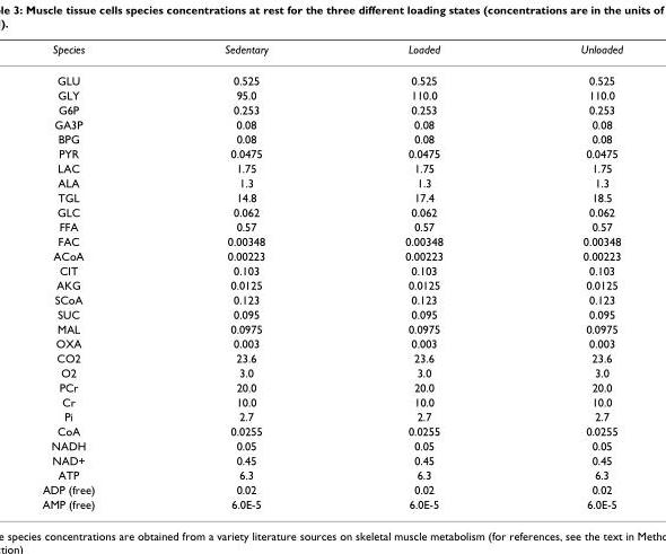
<table><thead><tr><td>Species</td><td>Sedentary</td><td>Loaded</td><td>Unloaded</td></tr></thead><tbody><tr><td>GLU</td><td>0.525</td><td>0.525</td><td>0.525</td></tr><tr><td>GLY</td><td>95.0</td><td>110.0</td><td>110.0</td></tr><tr><td>G6P</td><td>0.253</td><td>0.253</td><td>0.253</td></tr><tr><td>GA3P</td><td>0.08</td><td>0.08</td><td>0.08</td></tr><tr><td>BPG</td><td>0.08</td><td>0.08</td><td>0.08</td></tr><tr><td>PYR</td><td>0.0475</td><td>0.0475</td><td>0.0475</td></tr><tr><td>LAC</td><td>1.75</td><td>1.75</td><td>1.75</td></tr><tr><td>ALA</td><td>1.3</td><td>1.3</td><td>1.3</td></tr><tr><td>TGL</td><td>14.8</td><td>17.4</td><td>18.5</td></tr><tr><td>GLC</td><td>0.062</td><td>0.062</td><td>0.062</td></tr><tr><td>FFA</td><td>0.57</td><td>0.57</td><td>0.57</td></tr><tr><td>FAC</td><td>0.00348</td><td>0.00348</td><td>0.00348</td></tr><tr><td>ACoA</td><td>0.00223</td><td>0.00223</td><td>0.00223</td></tr><tr><td>CIT</td><td>0.103</td><td>0.103</td><td>0.103</td></tr><tr><td>AKG</td><td>0.0125</td><td>0.0125</td><td>0.0125</td></tr><tr><td>SCoA</td><td>0.123</td><td>0.123</td><td>0.123</td></tr><tr><td>SUC</td><td>0.095</td><td>0.095</td><td>0.095</td></tr><tr><td>MAL</td><td>0.0975</td><td>0.0975</td><td>0.0975</td></tr><tr><td>OXA</td><td>0.003</td><td>0.003</td><td>0.003</td></tr><tr><td>CO2</td><td>23.6</td><td>23.6</td><td>23.6</td></tr><tr><td>O2</td><td>3.0</td><td>3.0</td><td>3.0</td></tr><tr><td>PCr</td><td>20.0</td><td>20.0</td><td>20.0</td></tr><tr><td>Cr</td><td>10.0</td><td>10.0</td><td>10.0</td></tr><tr><td>Pi</td><td>2.7</td><td>2.7</td><td>2.7</td></tr><tr><td>CoA</td><td>0.0255</td><td>0.0255</td><td>0.0255</td></tr><tr><td>NADH</td><td>0.05</td><td>0.05</td><td>0.05</td></tr><tr><td>NAD+</td><td>0.45</td><td>0.45</td><td>0.45</td></tr><tr><td>ATP</td><td>6.3</td><td>6.3</td><td>6.3</td></tr><tr><td>ADP (free)</td><td>0.02</td><td>0.02</td><td>0.02</td></tr><tr><td>AMP (free)</td><td>6.0E-5</td><td>6.0E-5</td><td>6.0E-5</td></tr></tbody></table>